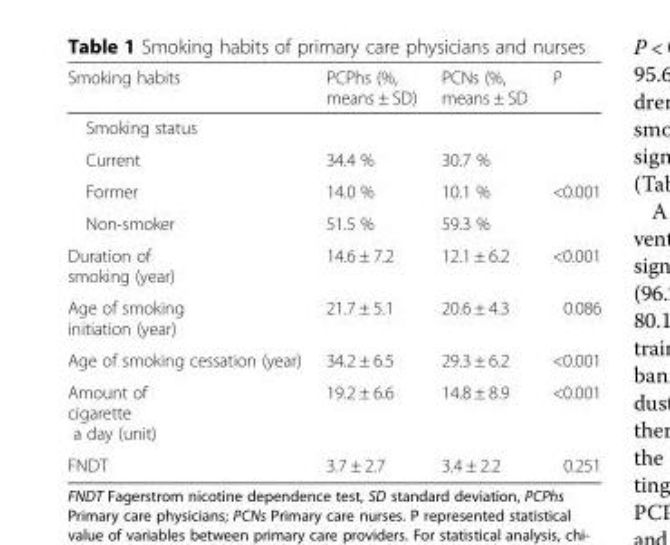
<table><thead><tr><td>Smoking habits</td><td>PCPhs (%, means ± SD)</td><td>PCNs (%, means ± SD</td><td>P</td></tr></thead><tbody><tr><td colspan="4">Smoking status</td></tr><tr><td>Current</td><td>34.4 %</td><td>30.7 %</td><td></td></tr><tr><td>Former</td><td>14.0 %</td><td>10.1 %</td><td rowspan="2">&lt;0.001</td></tr><tr><td>Non-smoker</td><td>51.5 %</td><td>59.3 %</td></tr><tr><td>Duration of smoking (year)</td><td>14.6 ± 7.2</td><td>12.1 ± 6.2</td><td>&lt;0.001</td></tr><tr><td>Age of smoking initiation (year)</td><td>21.7 ± 5.1</td><td>20.6 ± 4.3</td><td>0.086</td></tr><tr><td>Age of smoking cessation (year)</td><td>34.2 ± 6.5</td><td>29.3 ± 6.2</td><td>&lt;0.001</td></tr><tr><td>Amount of cigarette a day (unit)</td><td>19.2 ± 6.6</td><td>14.8 ± 8.9</td><td>&lt;0.001</td></tr><tr><td>FNDT</td><td>3.7 ± 2.7</td><td>3.4 ± 2.2</td><td>0.251</td></tr></tbody></table>